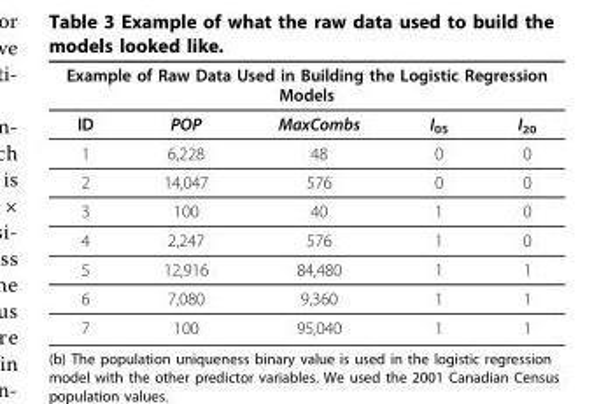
<table><thead><tr><td colspan="5">Example of Raw Data Used in Building the Logistic Regression Models</td></tr><tr><td>ID</td><td>POP</td><td>MaxCombs</td><td>I<sub>05</sub></td><td>I<sub>20</sub></td></tr></thead><tbody><tr><td>1</td><td>6,228</td><td>48</td><td>0</td><td>0</td></tr><tr><td>2</td><td>14,047</td><td>576</td><td>0</td><td>0</td></tr><tr><td>3</td><td>100</td><td>40</td><td>1</td><td>0</td></tr><tr><td>4</td><td>2,247</td><td>576</td><td>1</td><td>0</td></tr><tr><td>5</td><td>12,916</td><td>84,480</td><td>1</td><td>1</td></tr><tr><td>6</td><td>7,080</td><td>9,360</td><td>1</td><td>1</td></tr><tr><td>7</td><td>100</td><td>95,040</td><td>1</td><td>1</td></tr></tbody></table>